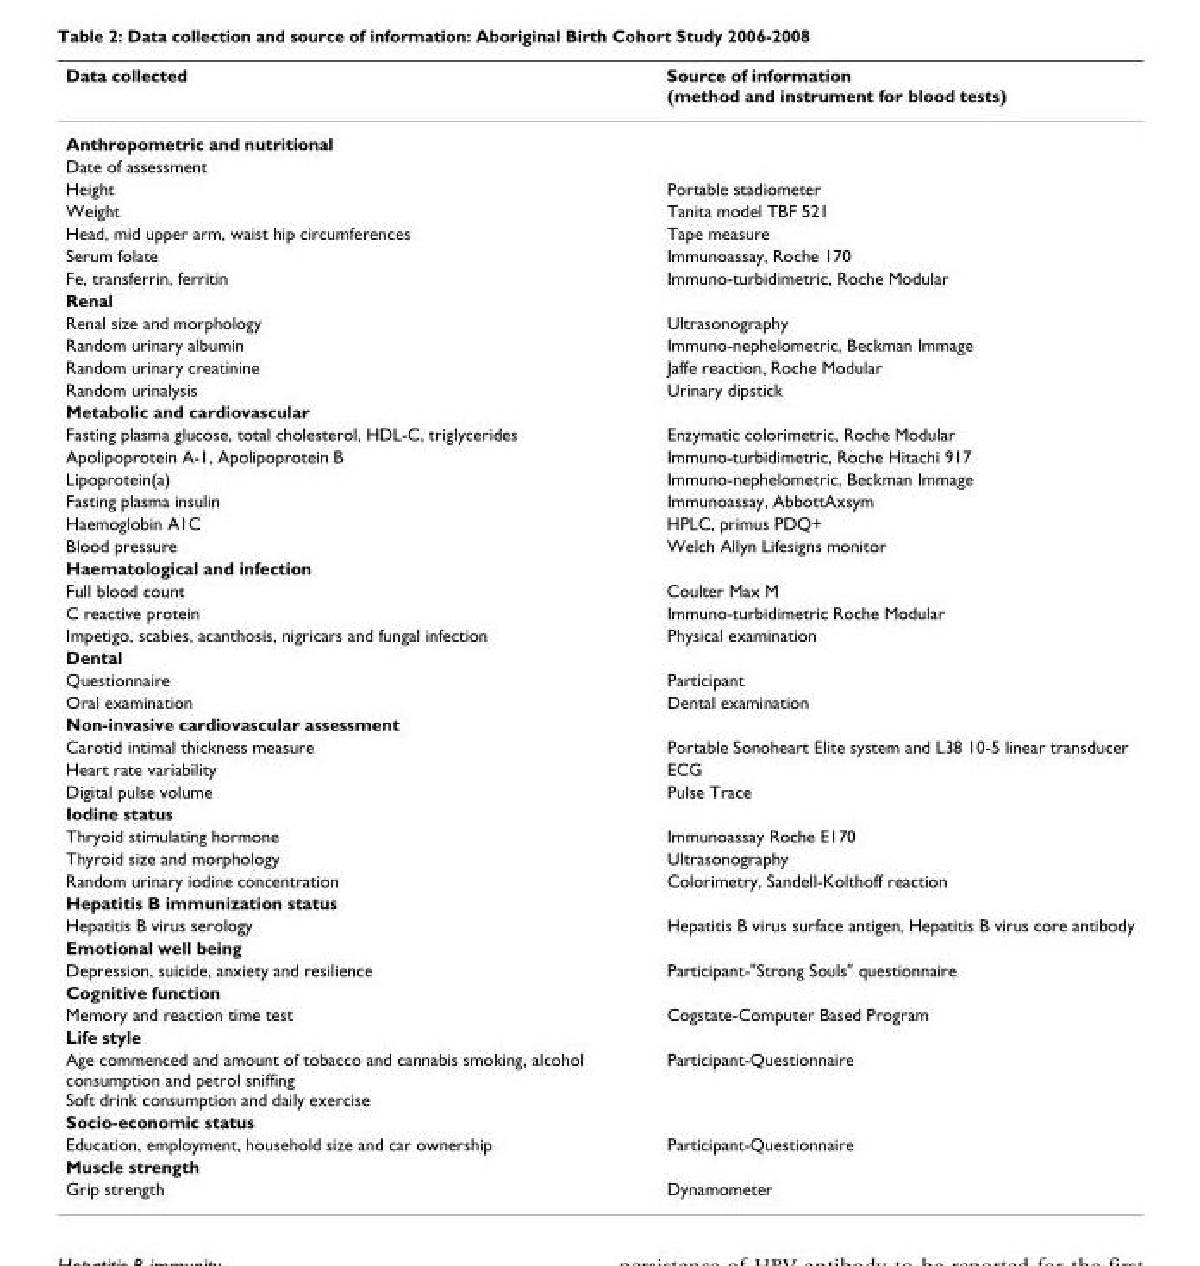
<table><thead><tr><td>Data collected</td><td>Source of information (method and instrument for blood tests)</td></tr></thead><tbody><tr><td colspan="2">Anthropometric and nutritional</td></tr><tr><td colspan="2">Date of assessment</td></tr><tr><td>Height</td><td>Portable stadiometer</td></tr><tr><td>Weight</td><td>Tanita model TBF 521</td></tr><tr><td>Head, mid upper arm, waist hip circumferences</td><td>Tape measure</td></tr><tr><td>Serum folate</td><td>Immunoassay, Roche 170</td></tr><tr><td>Fe, transferrin, ferritin</td><td>Immuno-turbidimetric, Roche Modular</td></tr><tr><td colspan="2">Renal</td></tr><tr><td>Renal size and morphology</td><td>Ultrasonography</td></tr><tr><td>Random urinary albumin</td><td>Immuno-nephelometric, Beckman Immage</td></tr><tr><td>Random urinary creatinine</td><td>Jaffe reaction, Roche Modular</td></tr><tr><td>Random urinalysis</td><td>Urinary dipstick</td></tr><tr><td colspan="2">Metabolic and cardiovascular</td></tr><tr><td>Fasting plasma glucose, total cholesterol, HDL-C, triglycerides</td><td>Enzymatic colorimetric, Roche Modular</td></tr><tr><td>Apolipoprotein A-1, Apolipoprotein B</td><td>Immuno-turbidimetric, Roche Hitachi 917</td></tr><tr><td>Lipoprotein(a)</td><td>Immuno-nephelometric, Beckman Immage</td></tr><tr><td>Fasting plasma insulin</td><td>Immunoassay, AbbottAxsym</td></tr><tr><td>Haemoglobin A1C</td><td>HPLC, primus PDQ+</td></tr><tr><td>Blood pressure</td><td>Welch Allyn Lifesigns monitor</td></tr><tr><td colspan="2">Haematological and infection</td></tr><tr><td>Full blood count</td><td>Coulter Max M</td></tr><tr><td>C reactive protein</td><td>Immuno-turbidimetric Roche Modular</td></tr><tr><td>Impetigo, scabies, acanthosis, nigricars and fungal infection</td><td>Physical examination</td></tr><tr><td colspan="2">Dental</td></tr><tr><td>Questionnaire</td><td>Participant</td></tr><tr><td>Oral examination</td><td>Dental examination</td></tr><tr><td colspan="2">Non-invasive cardiovascular assessment</td></tr><tr><td>Carotid intimal thickness measure</td><td>Portable Sonoheart Elite system and L38 10-5 linear transducer</td></tr><tr><td>Heart rate variability</td><td>ECG</td></tr><tr><td>Digital pulse volume</td><td>Pulse Trace</td></tr><tr><td colspan="2">Iodine status</td></tr><tr><td>Thryoid stimulating hormone</td><td>Immunoassay Roche E170</td></tr><tr><td>Thyroid size and morphology</td><td>Ultrasonography</td></tr><tr><td>Random urinary iodine concentration</td><td>Colorimetry, Sandell-Kolthoff reaction</td></tr><tr><td colspan="2">Hepatitis B immunization status</td></tr><tr><td>Hepatitis B virus serology</td><td>Hepatitis B virus surface antigen, Hepatitis B virus core antibody</td></tr><tr><td colspan="2">Emotional well being</td></tr><tr><td>Depression, suicide, anxiety and resilience</td><td>Participant-&quot;Strong Souls&quot; questionnaire</td></tr><tr><td colspan="2">Cognitive function</td></tr><tr><td>Memory and reaction time test</td><td>Cogstate-Computer Based Program</td></tr><tr><td colspan="2">Life style</td></tr><tr><td>Age commenced and amount of tobacco and cannabis smoking, alcohol consumption and petrol sniffing Soft drink consumption and daily exercise</td><td>Participant-Questionnaire</td></tr><tr><td colspan="2">Socio-economic status</td></tr><tr><td>Education, employment, household size and car ownership</td><td>Participant-Questionnaire</td></tr><tr><td colspan="2">Muscle strength</td></tr><tr><td>Grip strength</td><td>Dynamometer</td></tr></tbody></table>